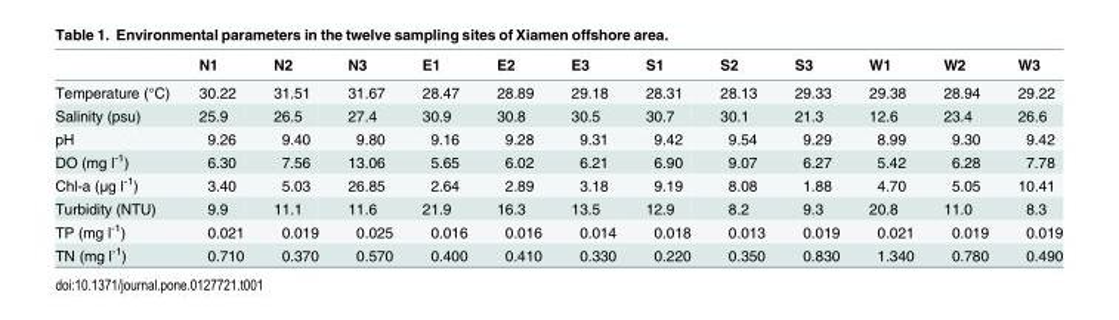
<table><thead><tr><td></td><td>N1</td><td>N2</td><td>N3</td><td>E1</td><td>E2</td><td>E3</td><td>S1</td><td>S2</td><td>S3</td><td>W1</td><td>W2</td><td>W3</td></tr></thead><tbody><tr><td>Temperature (°C)</td><td>30.22</td><td>31.51</td><td>31.67</td><td>28.47</td><td>28.89</td><td>29.18</td><td>28.31</td><td>28.13</td><td>29.33</td><td>29.38</td><td>28.94</td><td>29.22</td></tr><tr><td>Salinity (psu)</td><td>25.9</td><td>26.5</td><td>27.4</td><td>30.9</td><td>30.8</td><td>30.5</td><td>30.7</td><td>30.1</td><td>21.3</td><td>12.6</td><td>23.4</td><td>26.6</td></tr><tr><td>pH</td><td>9.26</td><td>9.40</td><td>9.80</td><td>9.16</td><td>9.28</td><td>9.31</td><td>9.42</td><td>9.54</td><td>9.29</td><td>8.99</td><td>9.30</td><td>9.42</td></tr><tr><td>DO (mg l<sup>-1</sup>)</td><td>6.30</td><td>7.56</td><td>13.06</td><td>5.65</td><td>6.02</td><td>6.21</td><td>6.90</td><td>9.07</td><td>6.27</td><td>5.42</td><td>6.28</td><td>7.78</td></tr><tr><td>Chl-a (μg l<sup>-1</sup>)</td><td>3.40</td><td>5.03</td><td>26.85</td><td>2.64</td><td>2.89</td><td>3.18</td><td>9.19</td><td>8.08</td><td>1.88</td><td>4.70</td><td>5.05</td><td>10.41</td></tr><tr><td>Turbidity (NTU)</td><td>9.9</td><td>11.1</td><td>11.6</td><td>21.9</td><td>16.3</td><td>13.5</td><td>12.9</td><td>8.2</td><td>9.3</td><td>20.8</td><td>11.0</td><td>8.3</td></tr><tr><td>TP (mg l<sup>-1</sup>)</td><td>0.021</td><td>0.019</td><td>0.025</td><td>0.016</td><td>0.016</td><td>0.014</td><td>0.018</td><td>0.013</td><td>0.019</td><td>0.021</td><td>0.019</td><td>0.019</td></tr><tr><td>TN (mg l<sup>-1</sup>)</td><td>0.710</td><td>0.370</td><td>0.570</td><td>0.400</td><td>0.410</td><td>0.330</td><td>0.220</td><td>0.350</td><td>0.830</td><td>1.340</td><td>0.780</td><td>0.490</td></tr></tbody></table>